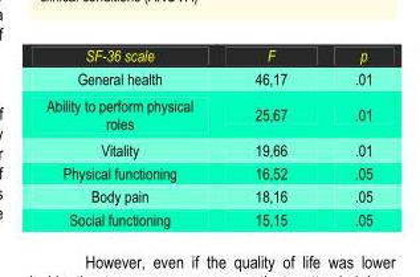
<table><thead><tr><td>SF-36 scale</td><td>F</td><td>p</td></tr></thead><tbody><tr><td>General health</td><td>46,17</td><td>.01</td></tr><tr><td>Ability to perform physical roles</td><td>25,67</td><td>.01</td></tr><tr><td>Vitality</td><td>19,66</td><td>.01</td></tr><tr><td>Physical functioning</td><td>16,52</td><td>.05</td></tr><tr><td>Body pain</td><td>18,16</td><td>.05</td></tr><tr><td>Social functioning</td><td>15,15</td><td>.05</td></tr></tbody></table>